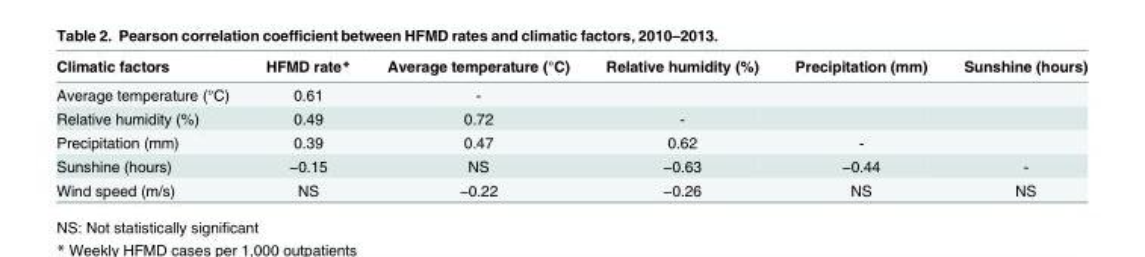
<table><thead><tr><td>Climatic factors</td><td>HFMD rate*</td><td>Average temperature (°C)</td><td>Relative humidity (%)</td><td>Precipitation (mm)</td><td>Sunshine (hours)</td></tr></thead><tbody><tr><td>Average temperature (°C)</td><td>0.61</td><td>-</td><td></td><td></td><td></td></tr><tr><td>Relative humidity (%)</td><td>0.49</td><td>0.72</td><td>-</td><td></td><td></td></tr><tr><td>Precipitation (mm)</td><td>0.39</td><td>0.47</td><td>0.62</td><td>-</td><td></td></tr><tr><td>Sunshine (hours)</td><td>−0.15</td><td>NS</td><td>−0.63</td><td>−0.44</td><td>-</td></tr><tr><td>Wind speed (m/s)</td><td>NS</td><td>−0.22</td><td>−0.26</td><td>NS</td><td>NS</td></tr></tbody></table>